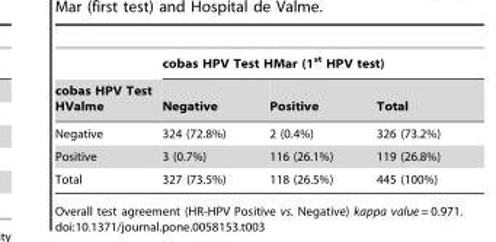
<table><thead><tr><td rowspan="2">cobas HPV Test HValme</td><td colspan="3">cobas HPV Test HMar (1<sup>st</sup> HPV test)</td></tr><tr><td>Negative</td><td>Positive</td><td>Total</td></tr></thead><tbody><tr><td>Negative</td><td>324 (72.8%)</td><td>2 (0.4%)</td><td>326 (73.2%)</td></tr><tr><td>Positive</td><td>3 (0.7%)</td><td>116 (26.1%)</td><td>119 (26.8%)</td></tr><tr><td>Total</td><td>327 (73.5%)</td><td>118 (26.5%)</td><td>445 (100%)</td></tr></tbody></table>